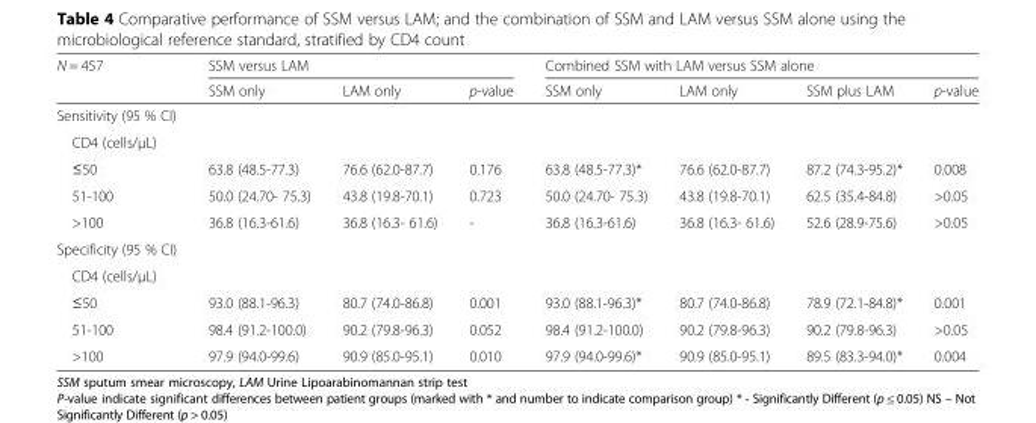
<table><thead><tr><td rowspan="2">N = 457</td><td colspan="3">SSM versus LAM</td><td colspan="4">Combined SSM with LAM versus SSM alone</td></tr><tr><td>SSM only</td><td>LAM only</td><td>p-value</td><td>SSM only</td><td>LAM only</td><td>SSM plus LAM</td><td>p-value</td></tr></thead><tbody><tr><td colspan="8">Sensitivity (95 % CI)</td></tr><tr><td colspan="8">CD4 (cells/μL)</td></tr><tr><td>≤50</td><td>63.8 (48.5-77.3)</td><td>76.6 (62.0-87.7)</td><td>0.176</td><td>63.8 (48.5-77.3)*</td><td>76.6 (62.0-87.7)</td><td>87.2 (74.3-95.2)*</td><td>0.008</td></tr><tr><td>51-100</td><td>50.0 (24.70- 75.3)</td><td>43.8 (19.8-70.1)</td><td>0.723</td><td>50.0 (24.70- 75.3)</td><td>43.8 (19.8-70.1)</td><td>62.5 (35.4-84.8)</td><td>&gt;0.05</td></tr><tr><td>&gt;100</td><td>36.8 (16.3-61.6)</td><td>36.8 (16.3- 61.6)</td><td>-</td><td>36.8 (16.3-61.6)</td><td>36.8 (16.3- 61.6)</td><td>52.6 (28.9-75.6)</td><td>&gt;0.05</td></tr><tr><td colspan="8">Specificity (95 % CI)</td></tr><tr><td colspan="8">CD4 (cells/μL)</td></tr><tr><td>≤50</td><td>93.0 (88.1-96.3)</td><td>80.7 (74.0-86.8)</td><td>0.001</td><td>93.0 (88.1-96.3)*</td><td>80.7 (74.0-86.8)</td><td>78.9 (72.1-84.8)*</td><td>0.001</td></tr><tr><td>51-100</td><td>98.4 (91.2-100.0)</td><td>90.2 (79.8-96.3)</td><td>0.052</td><td>98.4 (91.2-100.0)</td><td>90.2 (79.8-96.3)</td><td>90.2 (79.8-96.3)</td><td>&gt;0.05</td></tr><tr><td>&gt;100</td><td>97.9 (94.0-99.6)</td><td>90.9 (85.0-95.1)</td><td>0.010</td><td>97.9 (94.0-99.6)*</td><td>90.9 (85.0-95.1)</td><td>89.5 (83.3-94.0)*</td><td>0.004</td></tr></tbody></table>